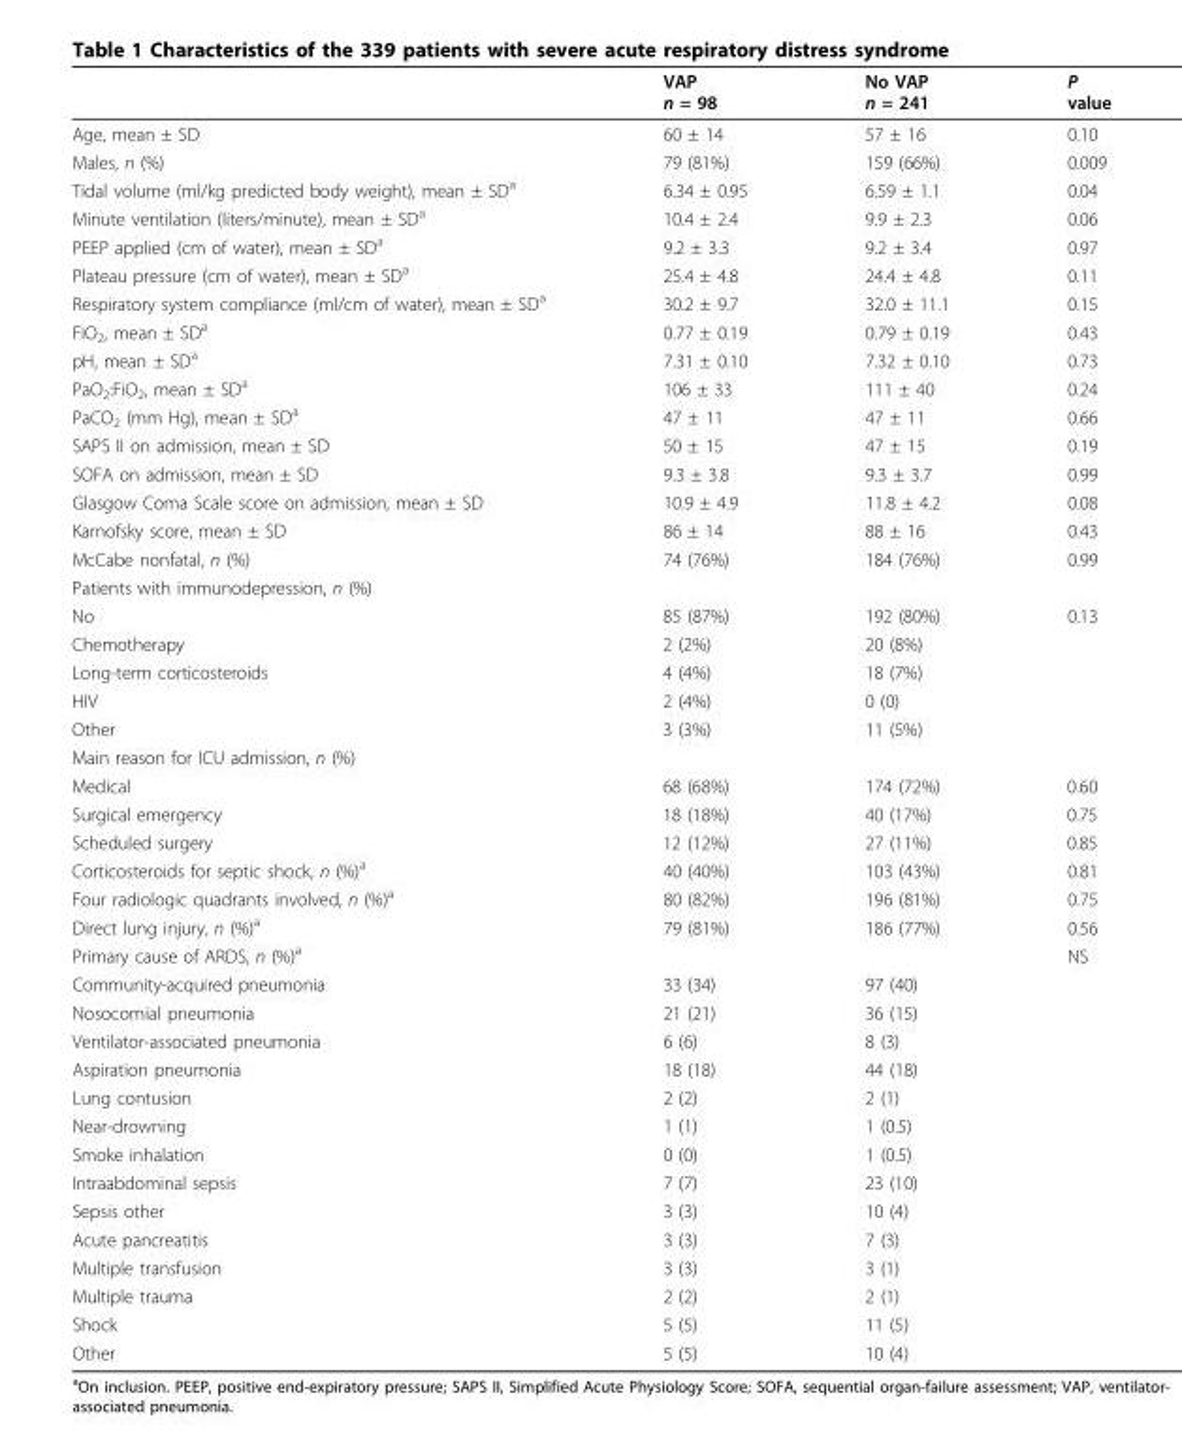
<table><thead><tr><td></td><td>VAP n = 98</td><td>No VAP n = 241</td><td>P value</td></tr></thead><tbody><tr><td>Age, mean ± SD</td><td>60 ± 14</td><td>57 ± 16</td><td>0.10</td></tr><tr><td>Males, n (%)</td><td>79 (81%)</td><td>159 (66%)</td><td>0.009</td></tr><tr><td>Tidal volume (ml/kg predicted body weight), mean ± SD<sup>a</sup></td><td>6.34 ± 0.95</td><td>6.59 ± 1.1</td><td>0.04</td></tr><tr><td>Minute ventilation (liters/minute), mean ± SD<sup>a</sup></td><td>10.4 ± 2.4</td><td>9.9 ± 2.3</td><td>0.06</td></tr><tr><td>PEEP applied (cm of water), mean ± SD<sup>a</sup></td><td>9.2 ± 3.3</td><td>9.2 ± 3.4</td><td>0.97</td></tr><tr><td>Plateau pressure (cm of water), mean ± SD<sup>a</sup></td><td>25.4 ± 4.8</td><td>24.4 ± 4.8</td><td>0.11</td></tr><tr><td>Respiratory system compliance (ml/cm of water), mean ± SD<sup>a</sup></td><td>30.2 ± 9.7</td><td>32.0 ± 11.1</td><td>0.15</td></tr><tr><td>FiO<sub>2</sub>, mean ± SD<sup>a</sup></td><td>0.77 ± 0.19</td><td>0.79 ± 0.19</td><td>0.43</td></tr><tr><td>pH, mean ± SD<sup>a</sup></td><td>7.31 ± 0.10</td><td>7.32 ± 0.10</td><td>0.73</td></tr><tr><td>PaO<sub>2</sub>:FiO<sub>2</sub>, mean ± SD<sup>a</sup></td><td>106 ± 33</td><td>111 ± 40</td><td>0.24</td></tr><tr><td>PaCO<sub>2</sub> (mm Hg), mean ± SD<sup>a</sup></td><td>47 ± 11</td><td>47 ± 11</td><td>0.66</td></tr><tr><td>SAPS II on admission, mean ± SD</td><td>50 ± 15</td><td>47 ± 15</td><td>0.19</td></tr><tr><td>SOFA on admission, mean ± SD</td><td>9.3 ± 3.8</td><td>9.3 ± 3.7</td><td>0.99</td></tr><tr><td>Glasgow Coma Scale score on admission, mean ± SD</td><td>10.9 ± 4.9</td><td>11.8 ± 4.2</td><td>0.08</td></tr><tr><td>Karnofsky score, mean ± SD</td><td>86 ± 14</td><td>88 ± 16</td><td>0.43</td></tr><tr><td>McCabe nonfatal, n (%)</td><td>74 (76%)</td><td>184 (76%)</td><td>0.99</td></tr><tr><td colspan="4">Patients with immunodepression, n (%)</td></tr><tr><td>No</td><td>85 (87%)</td><td>192 (80%)</td><td>0.13</td></tr><tr><td>Chemotherapy</td><td>2 (2%)</td><td>20 (8%)</td><td></td></tr><tr><td>Long-term corticosteroids</td><td>4 (4%)</td><td>18 (7%)</td><td></td></tr><tr><td>HIV</td><td>2 (4%)</td><td>0 (0)</td><td></td></tr><tr><td>Other</td><td>3 (3%)</td><td>11 (5%)</td><td></td></tr><tr><td colspan="4">Main reason for ICU admission, n (%)</td></tr><tr><td>Medical</td><td>68 (68%)</td><td>174 (72%)</td><td>0.60</td></tr><tr><td>Surgical emergency</td><td>18 (18%)</td><td>40 (17%)</td><td>0.75</td></tr><tr><td>Scheduled surgery</td><td>12 (12%)</td><td>27 (11%)</td><td>0.85</td></tr><tr><td>Corticosteroids for septic shock, n (%)<sup>a</sup></td><td>40 (40%)</td><td>103 (43%)</td><td>0.81</td></tr><tr><td>Four radiologic quadrants involved, n (%)<sup>a</sup></td><td>80 (82%)</td><td>196 (81%)</td><td>0.75</td></tr><tr><td>Direct lung injury, n (%)<sup>a</sup></td><td>79 (81%)</td><td>186 (77%)</td><td>0.56</td></tr><tr><td>Primary cause of ARDS, n (%)<sup>a</sup></td><td></td><td></td><td>NS</td></tr><tr><td>Community-acquired pneumonia</td><td>33 (34)</td><td>97 (40)</td><td></td></tr><tr><td>Nosocomial pneumonia</td><td>21 (21)</td><td>36 (15)</td><td></td></tr><tr><td>Ventilator-associated pneumonia</td><td>6 (6)</td><td>8 (3)</td><td></td></tr><tr><td>Aspiration pneumonia</td><td>18 (18)</td><td>44 (18)</td><td></td></tr><tr><td>Lung contusion</td><td>2 (2)</td><td>2 (1)</td><td></td></tr><tr><td>Near-drowning</td><td>1 (1)</td><td>1 (0.5)</td><td></td></tr><tr><td>Smoke inhalation</td><td>0 (0)</td><td>1 (0.5)</td><td></td></tr><tr><td>Intraabdominal sepsis</td><td>7 (7)</td><td>23 (10)</td><td></td></tr><tr><td>Sepsis other</td><td>3 (3)</td><td>10 (4)</td><td></td></tr><tr><td>Acute pancreatitis</td><td>3 (3)</td><td>7 (3)</td><td></td></tr><tr><td>Multiple transfusion</td><td>3 (3)</td><td>3 (1)</td><td></td></tr><tr><td>Multiple trauma</td><td>2 (2)</td><td>2 (1)</td><td></td></tr><tr><td>Shock</td><td>5 (5)</td><td>11 (5)</td><td></td></tr><tr><td>Other</td><td>5 (5)</td><td>10 (4)</td><td></td></tr></tbody></table>